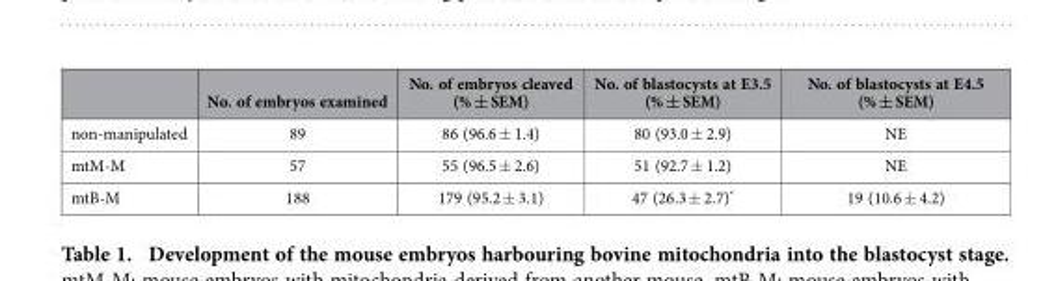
<table><thead><tr><td></td><td>No. of embryos examined</td><td>No. of embryos cleaved (% ± SEM)</td><td>No. of blastocysts at E3.5 (% ± SEM)</td><td>No. of blastocysts at E4.5 (% ± SEM)</td></tr></thead><tbody><tr><td>non-manipulated</td><td>89</td><td>86 (96.6 ± 1.4)</td><td>80 (93.0 ± 2.9)</td><td>NE</td></tr><tr><td>mtM-M</td><td>57</td><td>55 (96.5 ± 2.6)</td><td>51 (92.7 ± 1.2)</td><td>NE</td></tr><tr><td>mtB-M</td><td>188</td><td>179 (95.2 ± 3.1)</td><td>47 (26.3 ± 2.7)*</td><td>19 (10.6 ± 4.2)</td></tr></tbody></table>